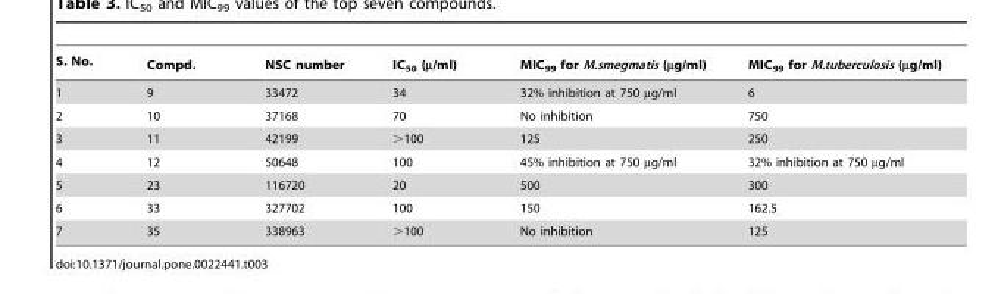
<table><thead><tr><td>S. No.</td><td>Compd.</td><td>NSC number</td><td>IC<sub>50</sub> (µ/ml)</td><td>MIC<sub>99</sub> for M.smegmatis (µg/ml)</td><td>MIC<sub>99</sub> for M.tuberculosis (µg/ml)</td></tr></thead><tbody><tr><td>1</td><td>9</td><td>33472</td><td>34</td><td>32% inhibition at 750 µg/ml</td><td>6</td></tr><tr><td>2</td><td>10</td><td>37168</td><td>70</td><td>No inhibition</td><td>750</td></tr><tr><td>3</td><td>11</td><td>42199</td><td>&gt;100</td><td>125</td><td>250</td></tr><tr><td>4</td><td>12</td><td>50648</td><td>100</td><td>45% inhibition at 750 µg/ml</td><td>32% inhibition at 750 µg/ml</td></tr><tr><td>5</td><td>23</td><td>116720</td><td>20</td><td>500</td><td>300</td></tr><tr><td>6</td><td>33</td><td>327702</td><td>100</td><td>150</td><td>162.5</td></tr><tr><td>7</td><td>35</td><td>338963</td><td>&gt;100</td><td>No inhibition</td><td>125</td></tr></tbody></table>